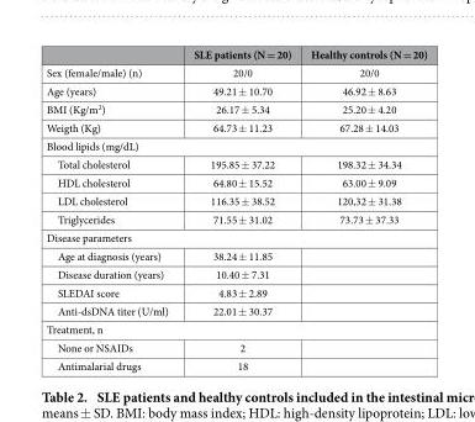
<table><thead><tr><td></td><td>SLE patients (N = 20)</td><td>Healthy controls (N = 20)</td></tr></thead><tbody><tr><td>Sex (female/male) (n)</td><td>20/0</td><td>20/0</td></tr><tr><td>Age (years)</td><td>49.21 ± 10.70</td><td>46.92 ± 8.63</td></tr><tr><td>BMI (Kg/m<sup>2</sup>)</td><td>26.17 ± 5.34</td><td>25.20 ± 4.20</td></tr><tr><td>Weigth (Kg)</td><td>64.73 ± 11.23</td><td>67.28 ± 14.03</td></tr><tr><td colspan="3">Blood lipids (mg/dL)</td></tr><tr><td>Total cholesterol</td><td>195.85 ± 37.22</td><td>198.32 ± 34.34</td></tr><tr><td>HDL cholesterol</td><td>64.80 ± 15.52</td><td>63.00 ± 9.09</td></tr><tr><td>LDL cholesterol</td><td>116.35 ± 38.52</td><td>120,32 ± 31.38</td></tr><tr><td>Triglycerides</td><td>71.55 ± 31.02</td><td>73.73 ± 37.33</td></tr><tr><td colspan="3">Disease parameters</td></tr><tr><td>Age at diagnosis (years)</td><td>38.24 ± 11.85</td><td></td></tr><tr><td>Disease duration (years)</td><td>10.40 ± 7.31</td><td></td></tr><tr><td>SLEDAI score</td><td>4.83 ± 2.89</td><td></td></tr><tr><td>Anti-dsDNA titer (U/ml)</td><td>22.01 ± 30.37</td><td></td></tr><tr><td colspan="3">Treatment, n</td></tr><tr><td>None or NSAIDs</td><td>2</td><td></td></tr><tr><td>Antimalarial drugs</td><td>18</td><td></td></tr></tbody></table>